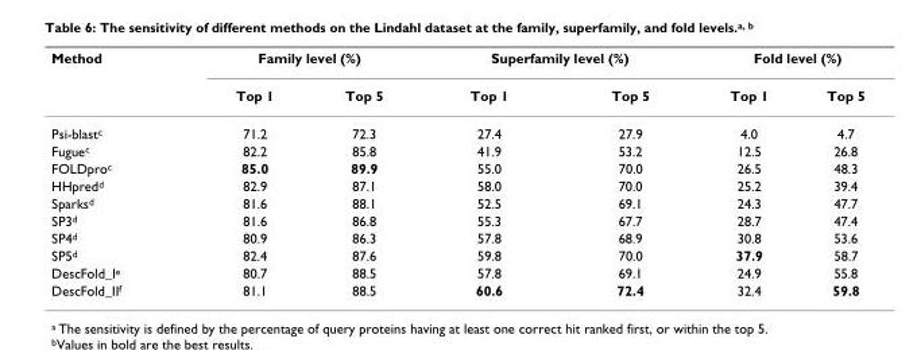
<table><thead><tr><td rowspan="2">Method</td><td colspan="2">Family level (%)</td><td colspan="2">Superfamily level (%)</td><td colspan="2">Fold level (%)</td></tr><tr><td>Top 1</td><td>Top 5</td><td>Top 1</td><td>Top 5</td><td>Top 1</td><td>Top 5</td></tr></thead><tbody><tr><td>Psi-blast<sup>c</sup></td><td>71.2</td><td>72.3</td><td>27.4</td><td>27.9</td><td>4.0</td><td>4.7</td></tr><tr><td>Fugue<sup>c</sup></td><td>82.2</td><td>85.8</td><td>41.9</td><td>53.2</td><td>12.5</td><td>26.8</td></tr><tr><td>FOLDpro<sup>c</sup></td><td>85.0</td><td>89.9</td><td>55.0</td><td>70.0</td><td>26.5</td><td>48.3</td></tr><tr><td>HHpred<sup>d</sup></td><td>82.9</td><td>87.1</td><td>58.0</td><td>70.0</td><td>25.2</td><td>39.4</td></tr><tr><td>Sparks<sup>d</sup></td><td>81.6</td><td>88.1</td><td>52.5</td><td>69.1</td><td>24.3</td><td>47.7</td></tr><tr><td>SP3<sup>d</sup></td><td>81.6</td><td>86.8</td><td>55.3</td><td>67.7</td><td>28.7</td><td>47.4</td></tr><tr><td>SP4<sup>d</sup></td><td>80.9</td><td>86.3</td><td>57.8</td><td>68.9</td><td>30.8</td><td>53.6</td></tr><tr><td>SP5<sup>d</sup></td><td>82.4</td><td>87.6</td><td>59.8</td><td>70.0</td><td>37.9</td><td>58.7</td></tr><tr><td>DescFold_I<sup>e</sup></td><td>80.7</td><td>88.5</td><td>57.8</td><td>69.1</td><td>24.9</td><td>55.8</td></tr><tr><td>DescFold_II<sup>f</sup></td><td>81.1</td><td>88.5</td><td>60.6</td><td>72.4</td><td>32.4</td><td>59.8</td></tr></tbody></table>